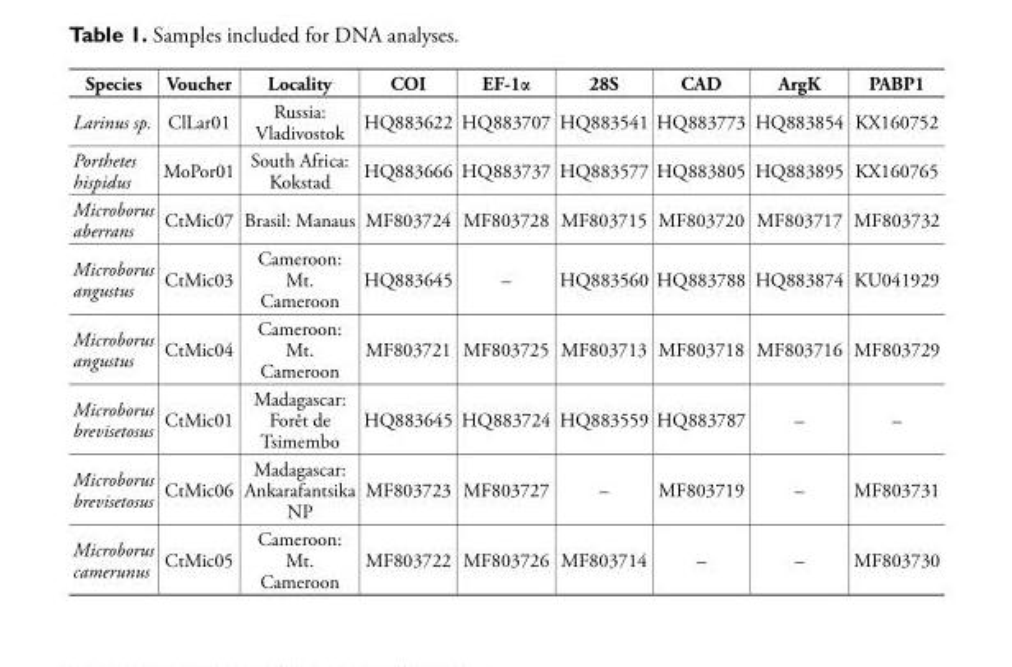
<table><thead><tr><td>Species</td><td>Voucher</td><td>Locality</td><td>COI</td><td>EF-1α</td><td>28S</td><td>CAD</td><td>ArgK</td><td>PABP1</td></tr></thead><tbody><tr><td>Larinus sp.</td><td>ClLar01</td><td>Russia: Vladivostok</td><td>HQ883622</td><td>HQ883707</td><td>HQ883541</td><td>HQ883773</td><td>HQ883854</td><td>KX160752</td></tr><tr><td>Porthetes hispidus</td><td>MoPor01</td><td>South Africa: Kokstad</td><td>HQ883666</td><td>HQ883737</td><td>HQ883577</td><td>HQ883805</td><td>HQ883895</td><td>KX160765</td></tr><tr><td>Microborus aberrans</td><td>CtMic07</td><td>Brasil: Manaus</td><td>MF803724</td><td>MF803728</td><td>MF803715</td><td>MF803720</td><td>MF803717</td><td>MF803732</td></tr><tr><td>Microborus angustus</td><td>CtMic03</td><td>Cameroon: Mt. Cameroon</td><td>HQ883645</td><td>–</td><td>HQ883560</td><td>HQ883788</td><td>HQ883874</td><td>KU041929</td></tr><tr><td>Microborus angustus</td><td>CtMic04</td><td>Cameroon: Mt. Cameroon</td><td>MF803721</td><td>MF803725</td><td>MF803713</td><td>MF803718</td><td>MF803716</td><td>MF803729</td></tr><tr><td>Microborus brevisetosus</td><td>CtMic01</td><td>Madagascar: Forêt de Tsimembo</td><td>HQ883645</td><td>HQ883724</td><td>HQ883559</td><td>HQ883787</td><td>–</td><td>–</td></tr><tr><td>Microborus brevisetosus</td><td>CtMic06</td><td>Madagascar: Ankarafantsika NP</td><td>MF803723</td><td>MF803727</td><td>–</td><td>MF803719</td><td>–</td><td>MF803731</td></tr><tr><td>Microborus camerunus</td><td>CtMic05</td><td>Cameroon: Mt. Cameroon</td><td>MF803722</td><td>MF803726</td><td>MF803714</td><td>–</td><td>–</td><td>MF803730</td></tr></tbody></table>